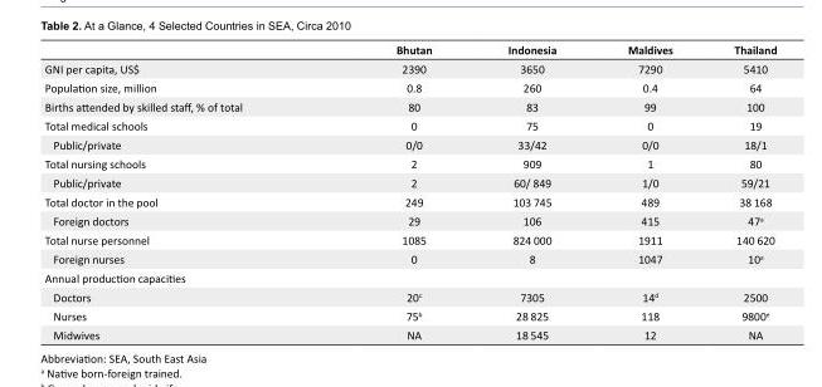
<table><thead><tr><td></td><td>Bhutan</td><td>Indonesia</td><td>Maldives</td><td>Thailand</td></tr></thead><tbody><tr><td>GNI per capita, US$</td><td>2390</td><td>3650</td><td>7290</td><td>5410</td></tr><tr><td>Population size, million</td><td>0.8</td><td>260</td><td>0.4</td><td>64</td></tr><tr><td>Births attended by skilled staff, % of total</td><td>80</td><td>83</td><td>99</td><td>100</td></tr><tr><td>Total medical schools</td><td>0</td><td>75</td><td>0</td><td>19</td></tr><tr><td>Public/private</td><td>0/0</td><td>33/42</td><td>0/0</td><td>18/1</td></tr><tr><td>Total nursing schools</td><td>2</td><td>909</td><td>1</td><td>80</td></tr><tr><td>Public/private</td><td>2</td><td>60/ 849</td><td>1/0</td><td>59/21</td></tr><tr><td>Total doctor in the pool</td><td>249</td><td>103 745</td><td>489</td><td>38 168</td></tr><tr><td>Foreign doctors</td><td>29</td><td>106</td><td>415</td><td>47<sup>a</sup></td></tr><tr><td>Total nurse personnel</td><td>1085</td><td>824 000</td><td>1911</td><td>140 620</td></tr><tr><td>Foreign nurses</td><td>0</td><td>8</td><td>1047</td><td>10<sup>a</sup></td></tr><tr><td colspan="5">Annual production capacities</td></tr><tr><td>Doctors</td><td>20<sup>c</sup></td><td>7305</td><td>14<sup>d</sup></td><td>2500</td></tr><tr><td>Nurses</td><td>75<sup>b</sup></td><td>28 825</td><td>118</td><td>9800<sup>e</sup></td></tr><tr><td>Midwives</td><td>NA</td><td>18 545</td><td>12</td><td>NA</td></tr></tbody></table>